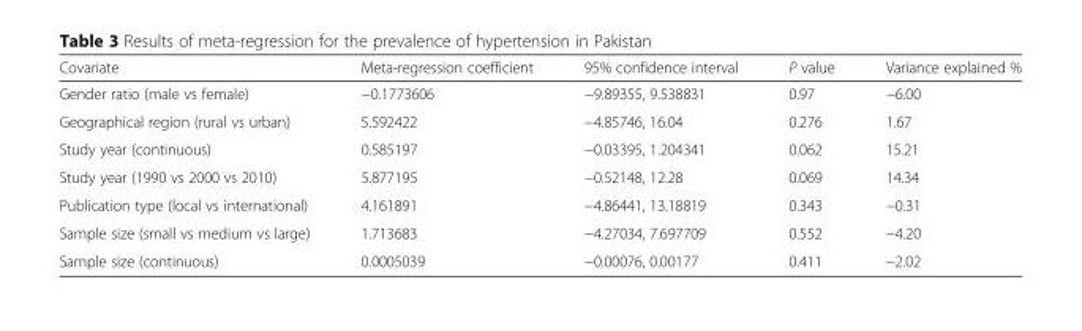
<table><thead><tr><td>Covariate</td><td>Meta-regression coefficient</td><td>95% confidence interval</td><td>P value</td><td>Variance explained %</td></tr></thead><tbody><tr><td>Gender ratio (male vs female)</td><td>−0.1773606</td><td>−9.89355, 9.538831</td><td>0.97</td><td>−6.00</td></tr><tr><td>Geographical region (rural vs urban)</td><td>5.592422</td><td>−4.85746, 16.04</td><td>0.276</td><td>1.67</td></tr><tr><td>Study year (continuous)</td><td>0.585197</td><td>−0.03395, 1.204341</td><td>0.062</td><td>15.21</td></tr><tr><td>Study year (1990 vs 2000 vs 2010)</td><td>5.877195</td><td>−0.52148, 12.28</td><td>0.069</td><td>14.34</td></tr><tr><td>Publication type (local vs international)</td><td>4.161891</td><td>−4.86441, 13.18819</td><td>0.343</td><td>−0.31</td></tr><tr><td>Sample size (small vs medium vs large)</td><td>1.713683</td><td>−4.27034, 7.697709</td><td>0.552</td><td>−4.20</td></tr><tr><td>Sample size (continuous)</td><td>0.0005039</td><td>−0.00076, 0.00177</td><td>0.411</td><td>−2.02</td></tr></tbody></table>